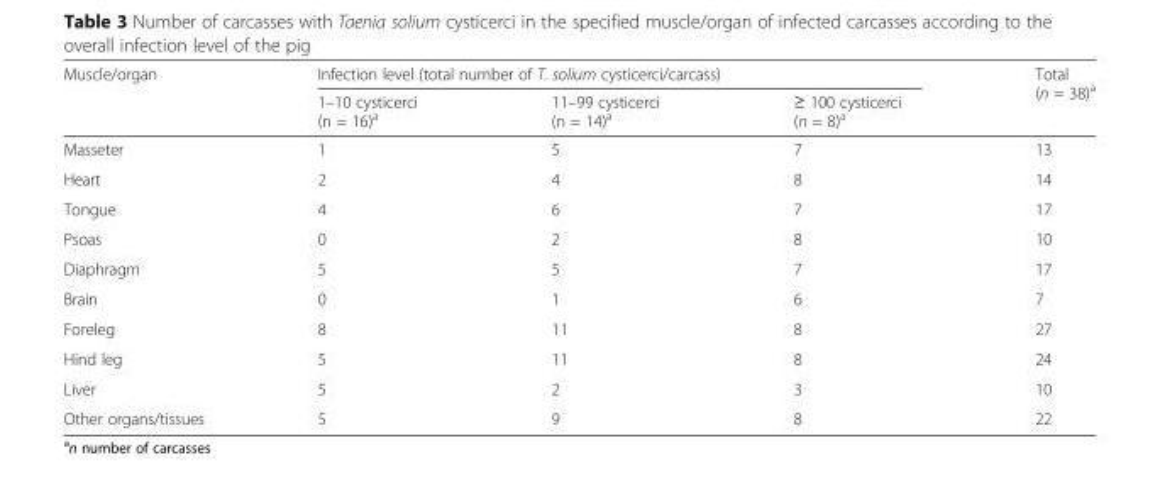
<table><thead><tr><td rowspan="2">Muscle/organ</td><td colspan="3">Infection level (total number of T. solium cysticerci/carcass)</td><td rowspan="2">Total (n = 38)<sup>a</sup></td></tr><tr><td>1–10 cysticerci (n = 16)<sup>a</sup></td><td>11–99 cysticerci (n = 14)<sup>a</sup></td><td>≥ 100 cysticerci (n = 8)<sup>a</sup></td></tr></thead><tbody><tr><td>Masseter</td><td>1</td><td>5</td><td>7</td><td>13</td></tr><tr><td>Heart</td><td>2</td><td>4</td><td>8</td><td>14</td></tr><tr><td>Tongue</td><td>4</td><td>6</td><td>7</td><td>17</td></tr><tr><td>Psoas</td><td>0</td><td>2</td><td>8</td><td>10</td></tr><tr><td>Diaphragm</td><td>5</td><td>5</td><td>7</td><td>17</td></tr><tr><td>Brain</td><td>0</td><td>1</td><td>6</td><td>7</td></tr><tr><td>Foreleg</td><td>8</td><td>11</td><td>8</td><td>27</td></tr><tr><td>Hind leg</td><td>5</td><td>11</td><td>8</td><td>24</td></tr><tr><td>Liver</td><td>5</td><td>2</td><td>3</td><td>10</td></tr><tr><td>Other organs/tissues</td><td>5</td><td>9</td><td>8</td><td>22</td></tr></tbody></table>